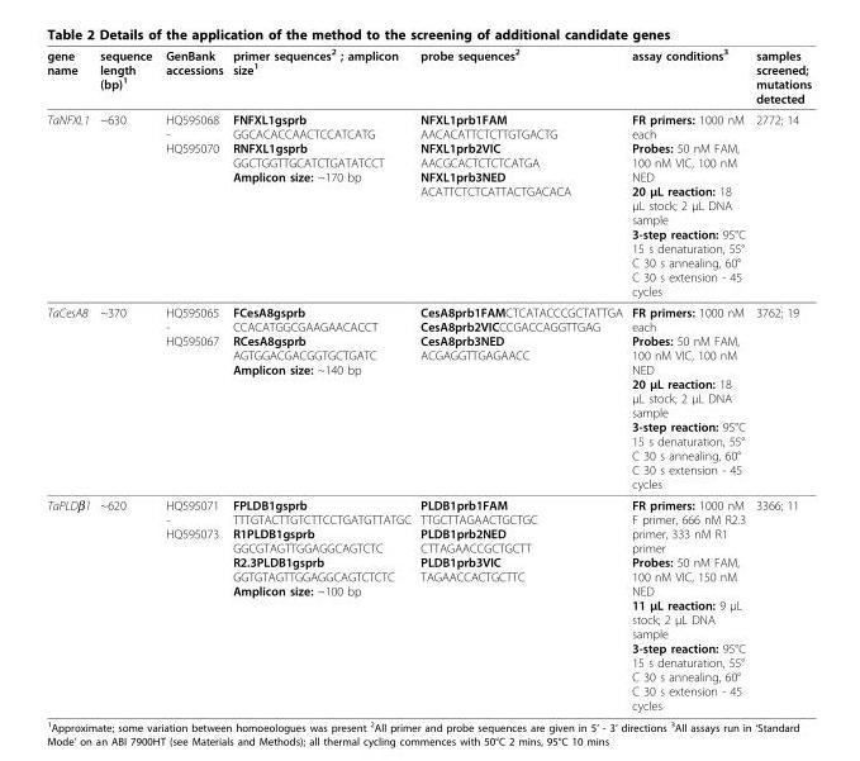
<table><thead><tr><td>gene name</td><td>sequence length (bp)<sup>1</sup></td><td>GenBank accessions</td><td>primer sequences<sup>2</sup> ; amplicon size<sup>1</sup></td><td>probe sequences<sup>2</sup></td><td>assay conditions<sup>3</sup></td><td>samples screened; mutations detected</td></tr></thead><tbody><tr><td>TaNFXL1</td><td>~630</td><td>HQ595068 - HQ595070</td><td>FNFXL1gsprb GGCACACCAACTCCATCATG RNFXL1gsprb GGCTGGTTGCATCTGATATCCT Amplicon size: ~170 bp</td><td>NFXL1prb1FAM AACACATTCTCTTGTGACTG NFXL1prb2VIC AACGCACTCTCTCATGA NFXL1prb3NED ACATTCTCTCATTACTGACACA</td><td>FR primers: 1000 nM each Probes: 50 nM FAM, 100 nM VIC, 100 nM NED 20 μL reaction: 18 μL stock; 2 μL DNA sample 3-step reaction: 95°C 15 s denaturation, 55° C 30 s annealing, 60° C 30 s extension - 45 cycles</td><td>2772; 14</td></tr><tr><td>TaCesA8</td><td>~370</td><td>HQ595065 - HQ595067</td><td>FCesA8gsprb CCACATGGCGAAGAACACCT RCesA8gsprb AGTGGACGACGGTGCTGATC Amplicon size: ~140 bp</td><td>CesA8prb1FAMCTCATACCCGCTATTGA CesA8prb2VICCCGACCAGGTTGAG CesA8prb3NED ACGAGGTTGAGAACC</td><td>FR primers: 1000 nM each Probes: 50 nM FAM, 100 nM VIC, 100 nM NED 20 μL reaction: 18 μL stock; 2 μL DNA sample 3-step reaction: 95°C 15 s denaturation, 55° C 30 s annealing, 60° C 30 s extension - 45 cycles</td><td>3762; 19</td></tr><tr><td>TaPLDβ1</td><td>~620</td><td>HQ595071 - HQ595073</td><td>FPLDB1gsprb TTTGTACTTGTCTTCCTGATGTTATGC R1PLDB1gsprb GGCGTAGTTGGAGGCAGTCTC R2.3PLDB1gsprb GGTGTAGTTGGAGGCAGTCTCTC Amplicon size: ~100 bp</td><td>PLDB1prb1FAM TTGCTTAGAACTGCTGC PLDB1prb2NED CTTAGAACCGCTGCTT PLDB1prb3VIC TAGAACCACTGCTTC</td><td>FR primers: 1000 nM F primer, 666 nM R2.3 primer, 333 nM R1 primer Probes: 50 nM FAM, 100 nM VIC, 150 nM NED 11 μL reaction: 9 μL stock; 2 μL DNA sample 3-step reaction: 95°C 15 s denaturation, 55° C 30 s annealing, 60° C 30 s extension - 45 cycles</td><td>3366; 11</td></tr></tbody></table>